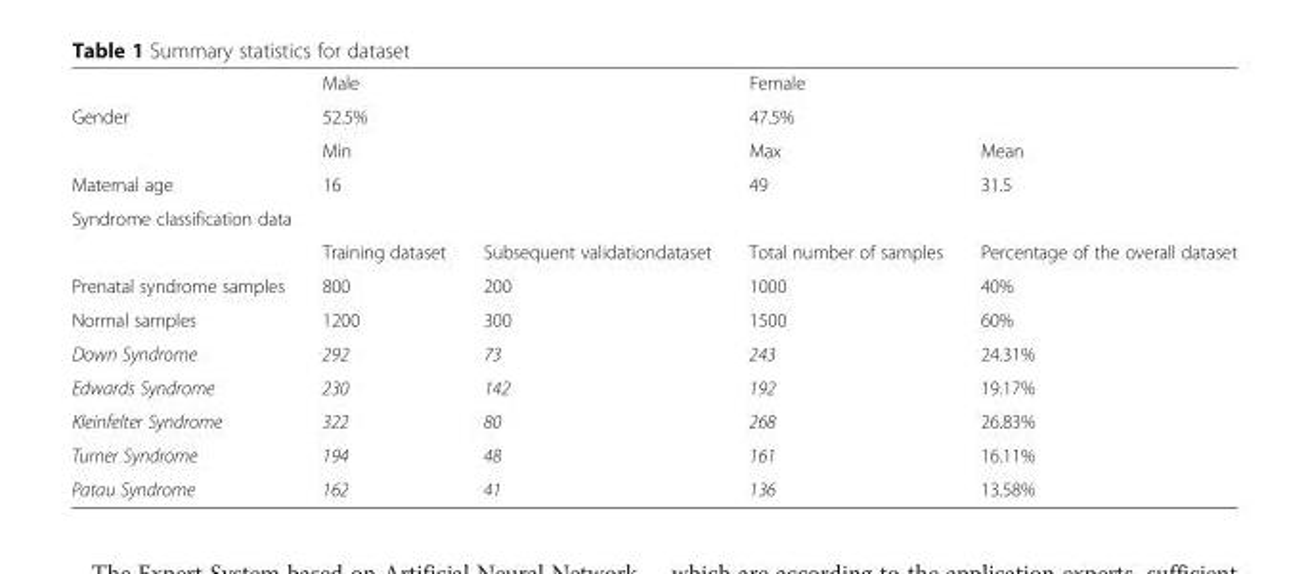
<table><thead><tr><td></td><td colspan="2">Male</td><td colspan="2">Female</td></tr></thead><tbody><tr><td rowspan="2">Gender</td><td colspan="2">52.5%</td><td colspan="2">47.5%</td></tr><tr><td colspan="2">Min</td><td>Max</td><td>Mean</td></tr><tr><td>Maternal age</td><td colspan="2">16</td><td>49</td><td>31.5</td></tr><tr><td colspan="5">Syndrome classification data</td></tr><tr><td></td><td>Training dataset</td><td>Subsequent validationdataset</td><td>Total number of samples</td><td>Percentage of the overall dataset</td></tr><tr><td>Prenatal syndrome samples</td><td>800</td><td>200</td><td>1000</td><td>40%</td></tr><tr><td>Normal samples</td><td>1200</td><td>300</td><td>1500</td><td>60%</td></tr><tr><td>Down Syndrome</td><td>292</td><td>73</td><td>243</td><td>24.31%</td></tr><tr><td>Edwards Syndrome</td><td>230</td><td>142</td><td>192</td><td>19.17%</td></tr><tr><td>Kleinfelter Syndrome</td><td>322</td><td>80</td><td>268</td><td>26.83%</td></tr><tr><td>Turner Syndrome</td><td>194</td><td>48</td><td>161</td><td>16.11%</td></tr><tr><td>Patau Syndrome</td><td>162</td><td>41</td><td>136</td><td>13.58%</td></tr></tbody></table>